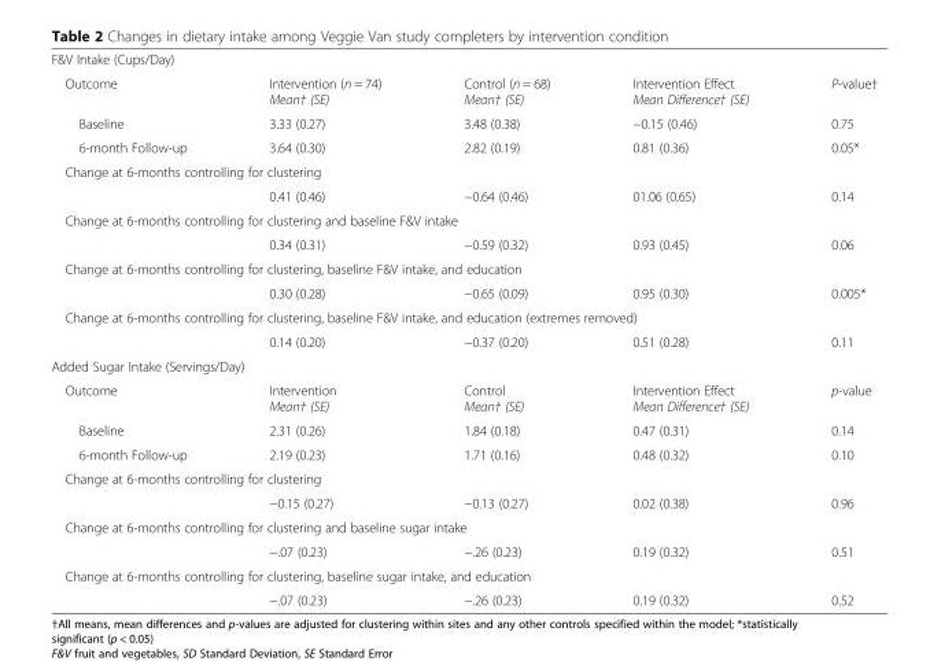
<table><tbody><tr><td colspan="5">F&amp;V Intake (Cups/Day)</td></tr><tr><td>Outcome</td><td>Intervention (n = 74) Mean† (SE)</td><td>Control (n = 68) Mean† (SE)</td><td>Intervention Effect Mean Difference† (SE)</td><td>P-value†</td></tr><tr><td>Baseline</td><td>3.33 (0.27)</td><td>3.48 (0.38)</td><td>−0.15 (0.46)</td><td>0.75</td></tr><tr><td>6-month Follow-up</td><td>3.64 (0.30)</td><td>2.82 (0.19)</td><td>0.81 (0.36)</td><td>0.05*</td></tr><tr><td colspan="5">Change at 6-months controlling for clustering</td></tr><tr><td></td><td>0.41 (0.46)</td><td>−0.64 (0.46)</td><td>01.06 (0.65)</td><td>0.14</td></tr><tr><td colspan="5">Change at 6-months controlling for clustering and baseline F&amp;V intake</td></tr><tr><td></td><td>0.34 (0.31)</td><td>−0.59 (0.32)</td><td>0.93 (0.45)</td><td>0.06</td></tr><tr><td colspan="5">Change at 6-months controlling for clustering, baseline F&amp;V intake, and education</td></tr><tr><td></td><td>0.30 (0.28)</td><td>−0.65 (0.09)</td><td>0.95 (0.30)</td><td>0.005*</td></tr><tr><td colspan="5">Change at 6-months controlling for clustering, baseline F&amp;V intake, and education (extremes removed)</td></tr><tr><td></td><td>0.14 (0.20)</td><td>−0.37 (0.20)</td><td>0.51 (0.28)</td><td>0.11</td></tr><tr><td colspan="5">Added Sugar Intake (Servings/Day)</td></tr><tr><td>Outcome</td><td>Intervention Mean† (SE)</td><td>Control Mean† (SE)</td><td>Intervention Effect Mean Difference† (SE)</td><td>p-value</td></tr><tr><td>Baseline</td><td>2.31 (0.26)</td><td>1.84 (0.18)</td><td>0.47 (0.31)</td><td>0.14</td></tr><tr><td>6-month Follow-up</td><td>2.19 (0.23)</td><td>1.71 (0.16)</td><td>0.48 (0.32)</td><td>0.10</td></tr><tr><td colspan="5">Change at 6-months controlling for clustering</td></tr><tr><td></td><td>−0.15 (0.27)</td><td>−0.13 (0.27)</td><td>0.02 (0.38)</td><td>0.96</td></tr><tr><td colspan="5">Change at 6-months controlling for clustering and baseline sugar intake</td></tr><tr><td></td><td>−.07 (0.23)</td><td>−.26 (0.23)</td><td>0.19 (0.32)</td><td>0.51</td></tr><tr><td colspan="5">Change at 6-months controlling for clustering, baseline sugar intake, and education</td></tr><tr><td></td><td>−.07 (0.23)</td><td>−.26 (0.23)</td><td>0.19 (0.32)</td><td>0.52</td></tr></tbody></table>